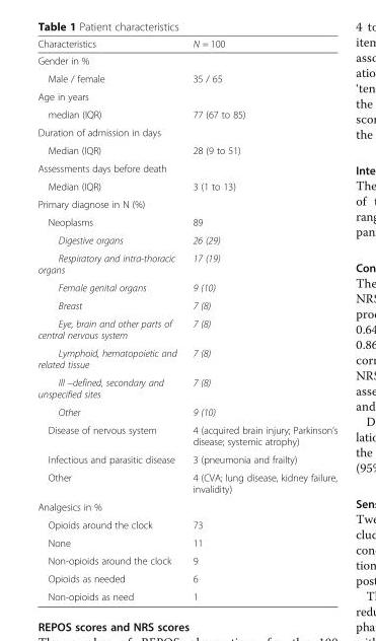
<table><thead><tr><td>Characteristics</td><td>N = 100</td></tr></thead><tbody><tr><td colspan="2">Gender in %</td></tr><tr><td>Male / female</td><td>35 / 65</td></tr><tr><td colspan="2">Age in years</td></tr><tr><td>median (IQR)</td><td>77 (67 to 85)</td></tr><tr><td colspan="2">Duration of admission in days</td></tr><tr><td>Median (IQR)</td><td>28 (9 to 51)</td></tr><tr><td colspan="2">Assessments days before death</td></tr><tr><td>Median (IQR)</td><td>3 (1 to 13)</td></tr><tr><td colspan="2">Primary diagnose in N (%)</td></tr><tr><td>Neoplasms</td><td>89</td></tr><tr><td>Digestive organs</td><td>26 (29)</td></tr><tr><td>Respiratory and intra-thoracic organs</td><td>17 (19)</td></tr><tr><td>Female genital organs</td><td>9 (10)</td></tr><tr><td>Breast</td><td>7 (8)</td></tr><tr><td>Eye, brain and other parts of central nervous system</td><td>7 (8)</td></tr><tr><td>Lymphoid, hematopoietic and related tissue</td><td>7 (8)</td></tr><tr><td>Ill –defined, secondary and unspecified sites</td><td>7 (8)</td></tr><tr><td>Other</td><td>9 (10)</td></tr><tr><td>Disease of nervous system</td><td>4 (acquired brain injury; Parkinson’s disease; systemic atrophy)</td></tr><tr><td>Infectious and parasitic disease</td><td>3 (pneumonia and frailty)</td></tr><tr><td>Other</td><td>4 (CVA; lung disease, kidney failure, invalidity)</td></tr><tr><td colspan="2">Analgesics in %</td></tr><tr><td>Opioids around the clock</td><td>73</td></tr><tr><td>None</td><td>11</td></tr><tr><td>Non-opioids around the clock</td><td>9</td></tr><tr><td>Opioids as needed</td><td>6</td></tr><tr><td>Non-opioids as need</td><td>1</td></tr></tbody></table>